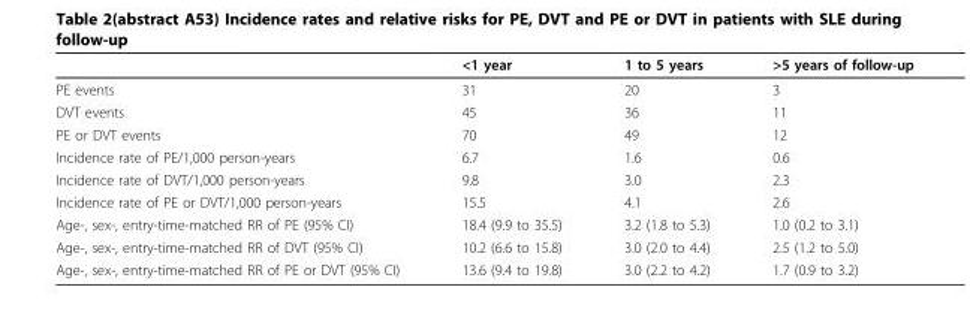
<table><thead><tr><td></td><td>&lt;1 year</td><td>1 to 5 years</td><td>&gt;5 years of follow-up</td></tr></thead><tbody><tr><td>PE events</td><td>31</td><td>20</td><td>3</td></tr><tr><td>DVT events</td><td>45</td><td>36</td><td>11</td></tr><tr><td>PE or DVT events</td><td>70</td><td>49</td><td>12</td></tr><tr><td>Incidence rate of PE/1,000 person-years</td><td>6.7</td><td>1.6</td><td>0.6</td></tr><tr><td>Incidence rate of DVT/1,000 person-years</td><td>9.8</td><td>3.0</td><td>2.3</td></tr><tr><td>Incidence rate of PE or DVT/1,000 person-years</td><td>15.5</td><td>4.1</td><td>2.6</td></tr><tr><td>Age-, sex-, entry-time-matched RR of PE (95% CI)</td><td>18.4 (9.9 to 35.5)</td><td>3.2 (1.8 to 5.3)</td><td>1.0 (0.2 to 3.1)</td></tr><tr><td>Age-, sex-, entry-time-matched RR of DVT (95% CI)</td><td>10.2 (6.6 to 15.8)</td><td>3.0 (2.0 to 4.4)</td><td>2.5 (1.2 to 5.0)</td></tr><tr><td>Age-, sex-, entry-time-matched RR of PE or DVT (95% CI)</td><td>13.6 (9.4 to 19.8)</td><td>3.0 (2.2 to 4.2)</td><td>1.7 (0.9 to 3.2)</td></tr></tbody></table>